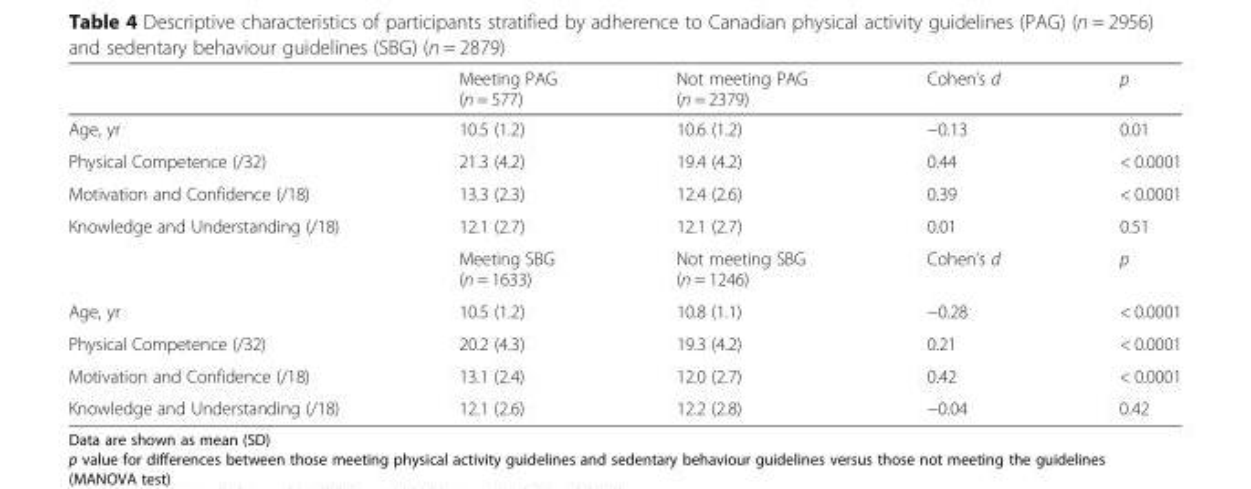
<table><thead><tr><td></td><td>Meeting PAG (n = 577)</td><td>Not meeting PAG (n = 2379)</td><td>Cohen’s d</td><td>p</td></tr></thead><tbody><tr><td>Age, yr</td><td>10.5 (1.2)</td><td>10.6 (1.2)</td><td>−0.13</td><td>0.01</td></tr><tr><td>Physical Competence (/32)</td><td>21.3 (4.2)</td><td>19.4 (4.2)</td><td>0.44</td><td>&lt; 0.0001</td></tr><tr><td>Motivation and Confidence (/18)</td><td>13.3 (2.3)</td><td>12.4 (2.6)</td><td>0.39</td><td>&lt; 0.0001</td></tr><tr><td rowspan="2">Knowledge and Understanding (/18)</td><td>12.1 (2.7)</td><td>12.1 (2.7)</td><td>0.01</td><td>0.51</td></tr><tr><td>Meeting SBG (n = 1633)</td><td>Not meeting SBG (n = 1246)</td><td>Cohen’s d</td><td>p</td></tr><tr><td>Age, yr</td><td>10.5 (1.2)</td><td>10.8 (1.1)</td><td>−0.28</td><td>&lt; 0.0001</td></tr><tr><td>Physical Competence (/32)</td><td>20.2 (4.3)</td><td>19.3 (4.2)</td><td>0.21</td><td>&lt; 0.0001</td></tr><tr><td>Motivation and Confidence (/18)</td><td>13.1 (2.4)</td><td>12.0 (2.7)</td><td>0.42</td><td>&lt; 0.0001</td></tr><tr><td>Knowledge and Understanding (/18)</td><td>12.1 (2.6)</td><td>12.2 (2.8)</td><td>−0.04</td><td>0.42</td></tr></tbody></table>